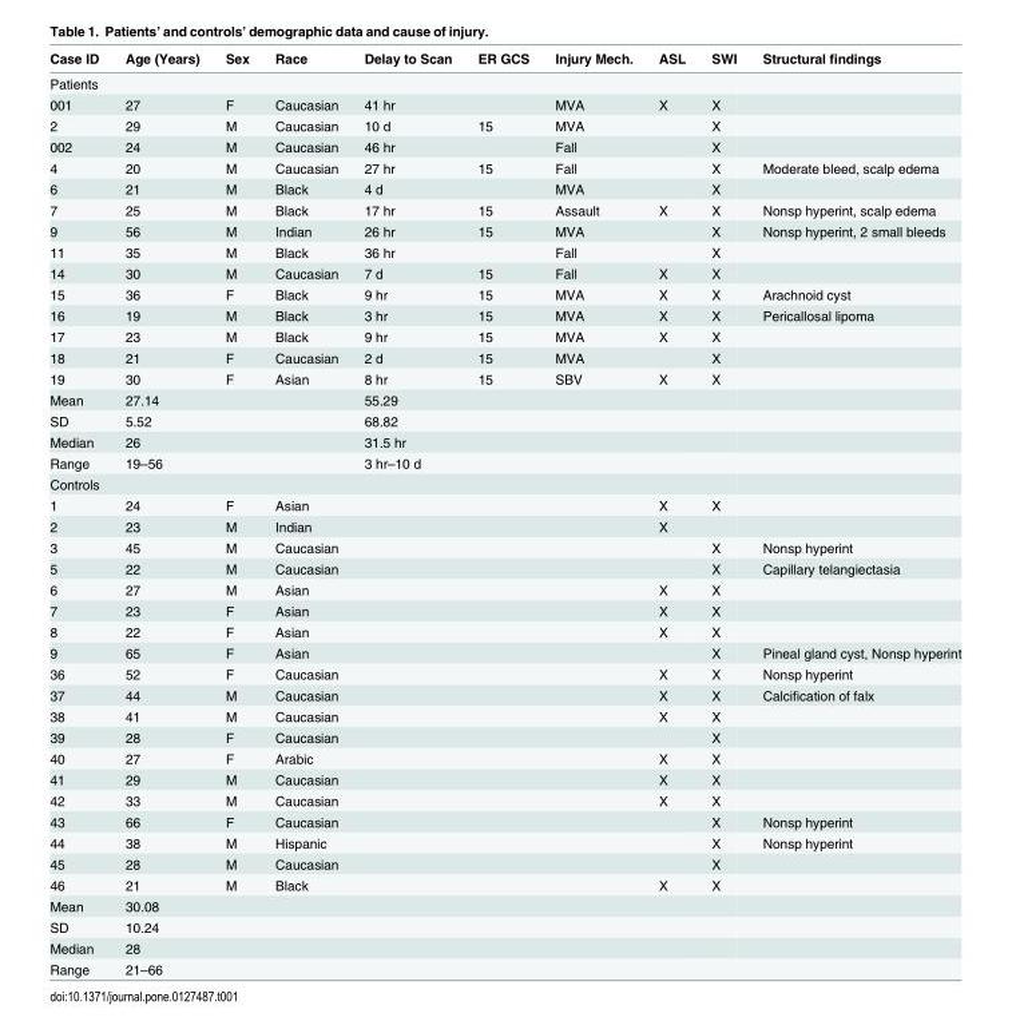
<table><thead><tr><td>Case ID</td><td>Age (Years)</td><td>Sex</td><td>Race</td><td>Delay to Scan</td><td>ER GCS</td><td>Injury Mech.</td><td>ASL</td><td>SWI</td><td>Structural findings</td></tr></thead><tbody><tr><td colspan="10">Patients</td></tr><tr><td>001</td><td>27</td><td>F</td><td>Caucasian</td><td>41 hr</td><td></td><td>MVA</td><td>X</td><td>X</td><td></td></tr><tr><td>2</td><td>29</td><td>M</td><td>Caucasian</td><td>10 d</td><td>15</td><td>MVA</td><td></td><td>X</td><td></td></tr><tr><td>002</td><td>24</td><td>M</td><td>Caucasian</td><td>46 hr</td><td></td><td>Fall</td><td></td><td>X</td><td></td></tr><tr><td>4</td><td>20</td><td>M</td><td>Caucasian</td><td>27 hr</td><td>15</td><td>Fall</td><td></td><td>X</td><td>Moderate bleed, scalp edema</td></tr><tr><td>6</td><td>21</td><td>M</td><td>Black</td><td>4 d</td><td></td><td>MVA</td><td></td><td>X</td><td></td></tr><tr><td>7</td><td>25</td><td>M</td><td>Black</td><td>17 hr</td><td>15</td><td>Assault</td><td>X</td><td>X</td><td>Nonsp hyperint, scalp edema</td></tr><tr><td>9</td><td>56</td><td>M</td><td>Indian</td><td>26 hr</td><td>15</td><td>MVA</td><td></td><td>X</td><td>Nonsp hyperint, 2 small bleeds</td></tr><tr><td>11</td><td>35</td><td>M</td><td>Black</td><td>36 hr</td><td></td><td>Fall</td><td></td><td>X</td><td></td></tr><tr><td>14</td><td>30</td><td>M</td><td>Caucasian</td><td>7 d</td><td>15</td><td>Fall</td><td>X</td><td>X</td><td></td></tr><tr><td>15</td><td>36</td><td>F</td><td>Black</td><td>9 hr</td><td>15</td><td>MVA</td><td>X</td><td>X</td><td>Arachnoid cyst</td></tr><tr><td>16</td><td>19</td><td>M</td><td>Black</td><td>3 hr</td><td>15</td><td>MVA</td><td>X</td><td>X</td><td>Pericallosal lipoma</td></tr><tr><td>17</td><td>23</td><td>M</td><td>Black</td><td>9 hr</td><td>15</td><td>MVA</td><td>X</td><td>X</td><td></td></tr><tr><td>18</td><td>21</td><td>F</td><td>Caucasian</td><td>2 d</td><td>15</td><td>MVA</td><td></td><td>X</td><td></td></tr><tr><td>19</td><td>30</td><td>F</td><td>Asian</td><td>8 hr</td><td>15</td><td>SBV</td><td>X</td><td>X</td><td></td></tr><tr><td>Mean</td><td>27.14</td><td></td><td></td><td>55.29</td><td></td><td></td><td></td><td></td><td></td></tr><tr><td>SD</td><td>5.52</td><td></td><td></td><td>68.82</td><td></td><td></td><td></td><td></td><td></td></tr><tr><td>Median</td><td>26</td><td></td><td></td><td>31.5 hr</td><td></td><td></td><td></td><td></td><td></td></tr><tr><td>Range</td><td>19–56</td><td></td><td></td><td>3 hr–10 d</td><td></td><td></td><td></td><td></td><td></td></tr><tr><td colspan="10">Controls</td></tr><tr><td>1</td><td>24</td><td>F</td><td>Asian</td><td></td><td></td><td></td><td>X</td><td>X</td><td></td></tr><tr><td>2</td><td>23</td><td>M</td><td>Indian</td><td></td><td></td><td></td><td>X</td><td></td><td></td></tr><tr><td>3</td><td>45</td><td>M</td><td>Caucasian</td><td></td><td></td><td></td><td></td><td>X</td><td>Nonsp hyperint</td></tr><tr><td>5</td><td>22</td><td>M</td><td>Caucasian</td><td></td><td></td><td></td><td></td><td>X</td><td>Capillary telangiectasia</td></tr><tr><td>6</td><td>27</td><td>M</td><td>Asian</td><td></td><td></td><td></td><td>X</td><td>X</td><td></td></tr><tr><td>7</td><td>23</td><td>F</td><td>Asian</td><td></td><td></td><td></td><td>X</td><td>X</td><td></td></tr><tr><td>8</td><td>22</td><td>F</td><td>Asian</td><td></td><td></td><td></td><td>X</td><td>X</td><td></td></tr><tr><td>9</td><td>65</td><td>F</td><td>Asian</td><td></td><td></td><td></td><td></td><td>X</td><td>Pineal gland cyst, Nonsp hyperint</td></tr><tr><td>36</td><td>52</td><td>F</td><td>Caucasian</td><td></td><td></td><td></td><td>X</td><td>X</td><td>Nonsp hyperint</td></tr><tr><td>37</td><td>44</td><td>M</td><td>Caucasian</td><td></td><td></td><td></td><td>X</td><td>X</td><td>Calcification of falx</td></tr><tr><td>38</td><td>41</td><td>M</td><td>Caucasian</td><td></td><td></td><td></td><td>X</td><td>X</td><td></td></tr><tr><td>39</td><td>28</td><td>F</td><td>Caucasian</td><td></td><td></td><td></td><td></td><td>X</td><td></td></tr><tr><td>40</td><td>27</td><td>F</td><td>Arabic</td><td></td><td></td><td></td><td>X</td><td>X</td><td></td></tr><tr><td>41</td><td>29</td><td>M</td><td>Caucasian</td><td></td><td></td><td></td><td>X</td><td>X</td><td></td></tr><tr><td>42</td><td>33</td><td>M</td><td>Caucasian</td><td></td><td></td><td></td><td>X</td><td>X</td><td></td></tr><tr><td>43</td><td>66</td><td>F</td><td>Caucasian</td><td></td><td></td><td></td><td></td><td>X</td><td>Nonsp hyperint</td></tr><tr><td>44</td><td>38</td><td>M</td><td>Hispanic</td><td></td><td></td><td></td><td></td><td>X</td><td>Nonsp hyperint</td></tr><tr><td>45</td><td>28</td><td>M</td><td>Caucasian</td><td></td><td></td><td></td><td></td><td>X</td><td></td></tr><tr><td>46</td><td>21</td><td>M</td><td>Black</td><td></td><td></td><td></td><td>X</td><td>X</td><td></td></tr><tr><td>Mean</td><td>30.08</td><td></td><td></td><td></td><td></td><td></td><td></td><td></td><td></td></tr><tr><td>SD</td><td>10.24</td><td></td><td></td><td></td><td></td><td></td><td></td><td></td><td></td></tr><tr><td>Median</td><td>28</td><td></td><td></td><td></td><td></td><td></td><td></td><td></td><td></td></tr><tr><td>Range</td><td>21–66</td><td></td><td></td><td></td><td></td><td></td><td></td><td></td><td></td></tr></tbody></table>